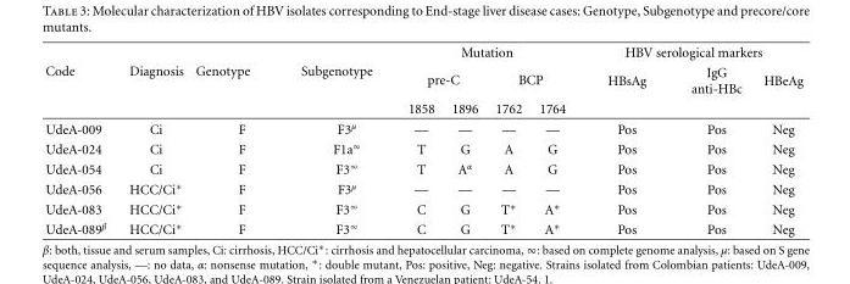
<table><thead><tr><td rowspan="3">Code</td><td rowspan="3">Diagnosis</td><td rowspan="3">Genotype</td><td rowspan="3">Subgenotype</td><td colspan="4">Mutation</td><td colspan="3">HBV serological markers</td></tr><tr><td colspan="2">pre-C</td><td colspan="2">BCP</td><td rowspan="2">HBsAg</td><td rowspan="2">IgG anti-HBc</td><td rowspan="2">HBeAg</td></tr><tr><td>1858</td><td>1896</td><td>1762</td><td>1764</td></tr></thead><tbody><tr><td>UdeA-009</td><td>Ci</td><td>F</td><td>F3<sup>μ</sup></td><td>—</td><td>—</td><td>—</td><td>—</td><td>Pos</td><td>Pos</td><td>Neg</td></tr><tr><td>UdeA-024</td><td>Ci</td><td>F</td><td>F1a<sup>∞</sup></td><td>T</td><td>G</td><td>A</td><td>G</td><td>Pos</td><td>Pos</td><td>Neg</td></tr><tr><td>UdeA-054</td><td>Ci</td><td>F</td><td>F3<sup>∞</sup></td><td>T</td><td>A<sup>α</sup></td><td>A</td><td>G</td><td>Pos</td><td>Pos</td><td>Neg</td></tr><tr><td>UdeA-056</td><td>HCC/Ci∗</td><td>F</td><td>F3<sup>μ</sup></td><td>—</td><td>—</td><td>—</td><td>—</td><td>Pos</td><td>Pos</td><td>Neg</td></tr><tr><td>UdeA-083</td><td>HCC/Ci∗</td><td>F</td><td>F3<sup>∞</sup></td><td>C</td><td>G</td><td>T∗</td><td>A∗</td><td>Pos</td><td>Pos</td><td>Neg</td></tr><tr><td>UdeA-089<sup>β</sup></td><td>HCC/Ci∗</td><td>F</td><td>F3<sup>∞</sup></td><td>C</td><td>G</td><td>T∗</td><td>A∗</td><td>Pos</td><td>Pos</td><td>Neg</td></tr></tbody></table>